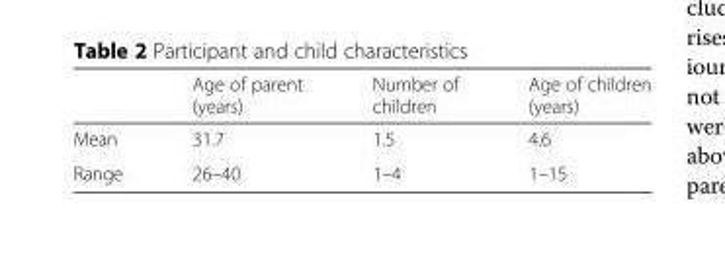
<table><thead><tr><td></td><td>Age of parent (years)</td><td>Number of children</td><td>Age of children (years)</td></tr></thead><tbody><tr><td>Mean</td><td>31.7</td><td>1.5</td><td>4.6</td></tr><tr><td>Range</td><td>26–40</td><td>1–4</td><td>1–15</td></tr></tbody></table>